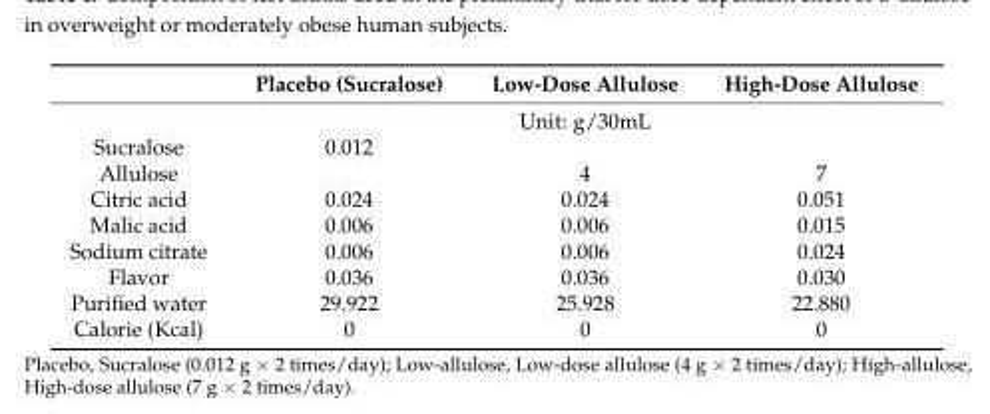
<table><thead><tr><td></td><td>Placebo (Sucralose)</td><td>Low-Dose Allulose</td><td>High-Dose Allulose</td></tr></thead><tbody><tr><td></td><td colspan="3">Unit: g/30mL</td></tr><tr><td>Sucralose</td><td>0.012</td><td></td><td></td></tr><tr><td>Allulose</td><td></td><td>4</td><td>7</td></tr><tr><td>Citric acid</td><td>0.024</td><td>0.024</td><td>0.051</td></tr><tr><td>Malic acid</td><td>0.006</td><td>0.006</td><td>0.015</td></tr><tr><td>Sodium citrate</td><td>0.006</td><td>0.006</td><td>0.024</td></tr><tr><td>Flavor</td><td>0.036</td><td>0.036</td><td>0.030</td></tr><tr><td>Purified water</td><td>29.922</td><td>25.928</td><td>22.880</td></tr><tr><td>Calorie (Kcal)</td><td>0</td><td>0</td><td>0</td></tr></tbody></table>